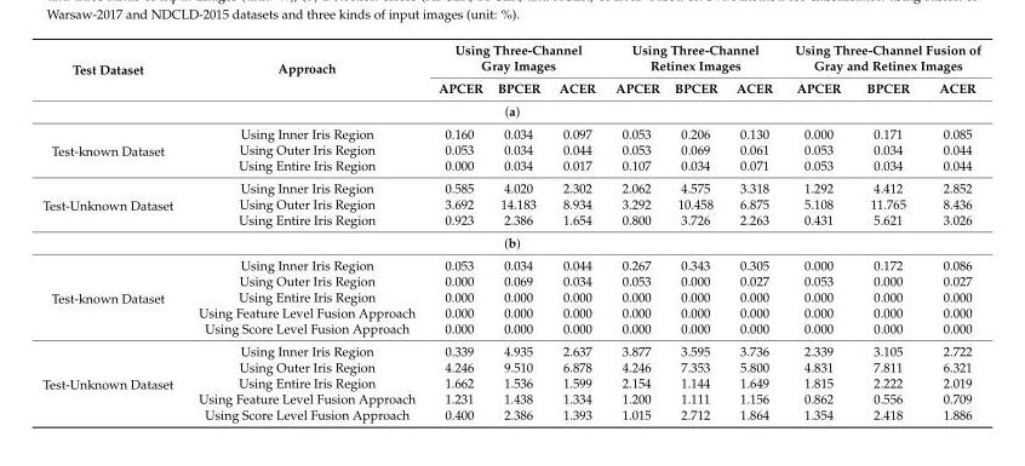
<table><thead><tr><td rowspan="2">Test Dataset</td><td rowspan="2">Approach</td><td colspan="3">Using Three-Channel Gray Images</td><td colspan="3">Using Three-Channel Retinex Images</td><td colspan="3">Using Three-Channel Fusion of Gray and Retinex Images</td></tr><tr><td>APCER</td><td>BPCER</td><td>ACER</td><td>APCER</td><td>BPCER</td><td>ACER</td><td>APCER</td><td>BPCER</td><td>ACER</td></tr></thead><tbody><tr><td colspan="11">(a)</td></tr><tr><td rowspan="3">Test-known Dataset</td><td>Using Inner Iris Region</td><td>0.160</td><td>0.034</td><td>0.097</td><td>0.053</td><td>0.206</td><td>0.130</td><td>0.000</td><td>0.171</td><td>0.085</td></tr><tr><td>Using Outer Iris Region</td><td>0.053</td><td>0.034</td><td>0.044</td><td>0.053</td><td>0.069</td><td>0.061</td><td>0.053</td><td>0.034</td><td>0.044</td></tr><tr><td>Using Entire Iris Region</td><td>0.000</td><td>0.034</td><td>0.017</td><td>0.107</td><td>0.034</td><td>0.071</td><td>0.053</td><td>0.034</td><td>0.044</td></tr><tr><td rowspan="3">Test-Unknown Dataset</td><td>Using Inner Iris Region</td><td>0.585</td><td>4.020</td><td>2.302</td><td>2.062</td><td>4.575</td><td>3.318</td><td>1.292</td><td>4.412</td><td>2.852</td></tr><tr><td>Using Outer Iris Region</td><td>3.692</td><td>14.183</td><td>8.934</td><td>3.292</td><td>10.458</td><td>6.875</td><td>5.108</td><td>11.765</td><td>8.436</td></tr><tr><td>Using Entire Iris Region</td><td>0.923</td><td>2.386</td><td>1.654</td><td>0.800</td><td>3.726</td><td>2.263</td><td>0.431</td><td>5.621</td><td>3.026</td></tr><tr><td colspan="11">(b)</td></tr><tr><td rowspan="5">Test-known Dataset</td><td>Using Inner Iris Region</td><td>0.053</td><td>0.034</td><td>0.044</td><td>0.267</td><td>0.343</td><td>0.305</td><td>0.000</td><td>0.172</td><td>0.086</td></tr><tr><td>Using Outer Iris Region</td><td>0.000</td><td>0.069</td><td>0.034</td><td>0.053</td><td>0.000</td><td>0.027</td><td>0.053</td><td>0.000</td><td>0.027</td></tr><tr><td>Using Entire Iris Region</td><td>0.000</td><td>0.000</td><td>0.000</td><td>0.000</td><td>0.000</td><td>0.000</td><td>0.000</td><td>0.000</td><td>0.000</td></tr><tr><td>Using Feature Level Fusion Approach</td><td>0.000</td><td>0.000</td><td>0.000</td><td>0.000</td><td>0.000</td><td>0.000</td><td>0.000</td><td>0.000</td><td>0.000</td></tr><tr><td>Using Score Level Fusion Approach</td><td>0.000</td><td>0.000</td><td>0.000</td><td>0.000</td><td>0.000</td><td>0.000</td><td>0.000</td><td>0.000</td><td>0.000</td></tr><tr><td rowspan="5">Test-Unknown Dataset</td><td>Using Inner Iris Region</td><td>0.339</td><td>4.935</td><td>2.637</td><td>3.877</td><td>3.595</td><td>3.736</td><td>2.339</td><td>3.105</td><td>2.722</td></tr><tr><td>Using Outer Iris Region</td><td>4.246</td><td>9.510</td><td>6.878</td><td>4.246</td><td>7.353</td><td>5.800</td><td>4.831</td><td>7.811</td><td>6.321</td></tr><tr><td>Using Entire Iris Region</td><td>1.662</td><td>1.536</td><td>1.599</td><td>2.154</td><td>1.144</td><td>1.649</td><td>1.815</td><td>2.222</td><td>2.019</td></tr><tr><td>Using Feature Level Fusion Approach</td><td>1.231</td><td>1.438</td><td>1.334</td><td>1.200</td><td>1.111</td><td>1.156</td><td>0.862</td><td>0.556</td><td>0.709</td></tr><tr><td>Using Score Level Fusion Approach</td><td>0.400</td><td>2.386</td><td>1.393</td><td>1.015</td><td>2.712</td><td>1.864</td><td>1.354</td><td>2.418</td><td>1.886</td></tr></tbody></table>